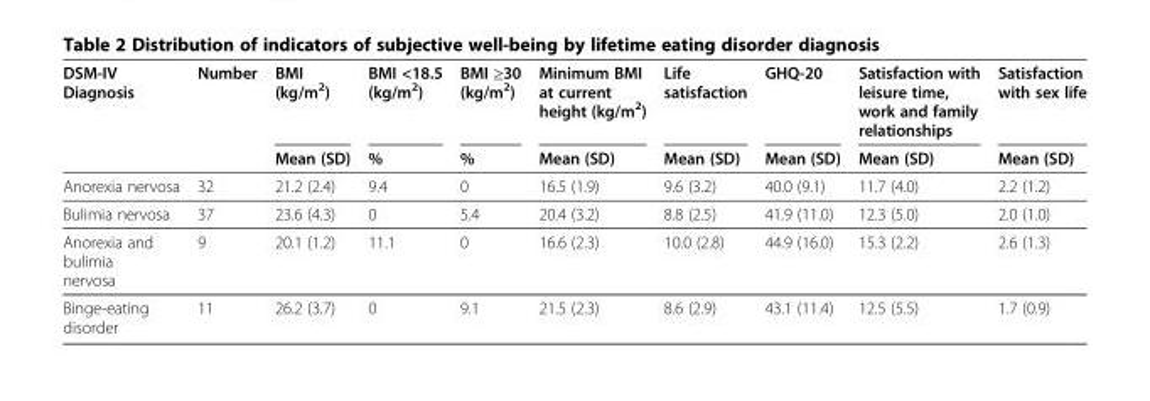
<table><thead><tr><td rowspan="2">DSM-IV Diagnosis</td><td rowspan="2">Number</td><td rowspan="2">BMI (kg/m<sup>2</sup>) Mean (SD)</td><td rowspan="2">BMI &lt;18.5 (kg/m<sup>2</sup>) %</td><td rowspan="2">BMI ≥30 (kg/m<sup>2</sup>) %</td><td rowspan="2">Minimum BMI at current height (kg/m<sup>2</sup>) Mean (SD)</td><td rowspan="2">Life satisfaction Mean (SD)</td><td rowspan="2">GHQ-20 Mean (SD)</td><td rowspan="2">Satisfaction with leisure time, work and family relationships Mean (SD)</td><td rowspan="2">Satisfaction with sex life Mean (SD)</td></tr><tr></tr></thead><tbody><tr><td>Anorexia nervosa</td><td>32</td><td>21.2 (2.4)</td><td>9.4</td><td>0</td><td>16.5 (1.9)</td><td>9.6 (3.2)</td><td>40.0 (9.1)</td><td>11.7 (4.0)</td><td>2.2 (1.2)</td></tr><tr><td>Bulimia nervosa</td><td>37</td><td>23.6 (4.3)</td><td>0</td><td>5.4</td><td>20.4 (3.2)</td><td>8.8 (2.5)</td><td>41.9 (11.0)</td><td>12.3 (5.0)</td><td>2.0 (1.0)</td></tr><tr><td>Anorexia and bulimia nervosa</td><td>9</td><td>20.1 (1.2)</td><td>11.1</td><td>0</td><td>16.6 (2.3)</td><td>10.0 (2.8)</td><td>44.9 (16.0)</td><td>15.3 (2.2)</td><td>2.6 (1.3)</td></tr><tr><td>Binge-eating disorder</td><td>11</td><td>26.2 (3.7)</td><td>0</td><td>9.1</td><td>21.5 (2.3)</td><td>8.6 (2.9)</td><td>43.1 (11.4)</td><td>12.5 (5.5)</td><td>1.7 (0.9)</td></tr></tbody></table>